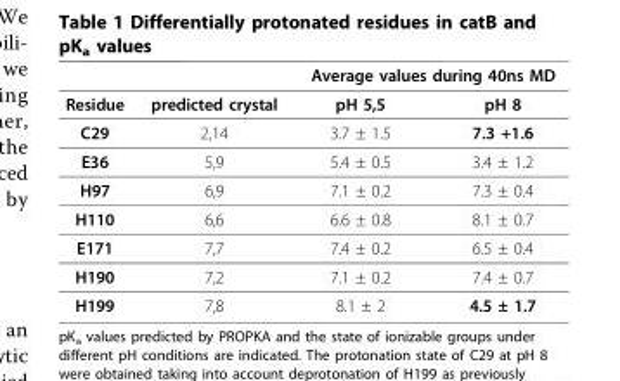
<table><thead><tr><td rowspan="2">Residue</td><td rowspan="2">predicted crystal</td><td colspan="2">Average values during 40ns MD</td></tr><tr><td>pH 5,5</td><td>pH 8</td></tr></thead><tbody><tr><td>C29</td><td>2,14</td><td>3.7 ± 1.5</td><td>7.3 +1.6</td></tr><tr><td>E36</td><td>5,9</td><td>5.4 ± 0.5</td><td>3.4 ± 1.2</td></tr><tr><td>H97</td><td>6,9</td><td>7.1 ± 0.2</td><td>7.3 ± 0.4</td></tr><tr><td>H110</td><td>6,6</td><td>6.6 ± 0.8</td><td>8.1 ± 0.7</td></tr><tr><td>E171</td><td>7,7</td><td>7.4 ± 0.2</td><td>6.5 ± 0.4</td></tr><tr><td>H190</td><td>7,2</td><td>7.1 ± 0.2</td><td>7.4 ± 0.7</td></tr><tr><td>H199</td><td>7,8</td><td>8.1 ± 2</td><td>4.5 ± 1.7</td></tr></tbody></table>